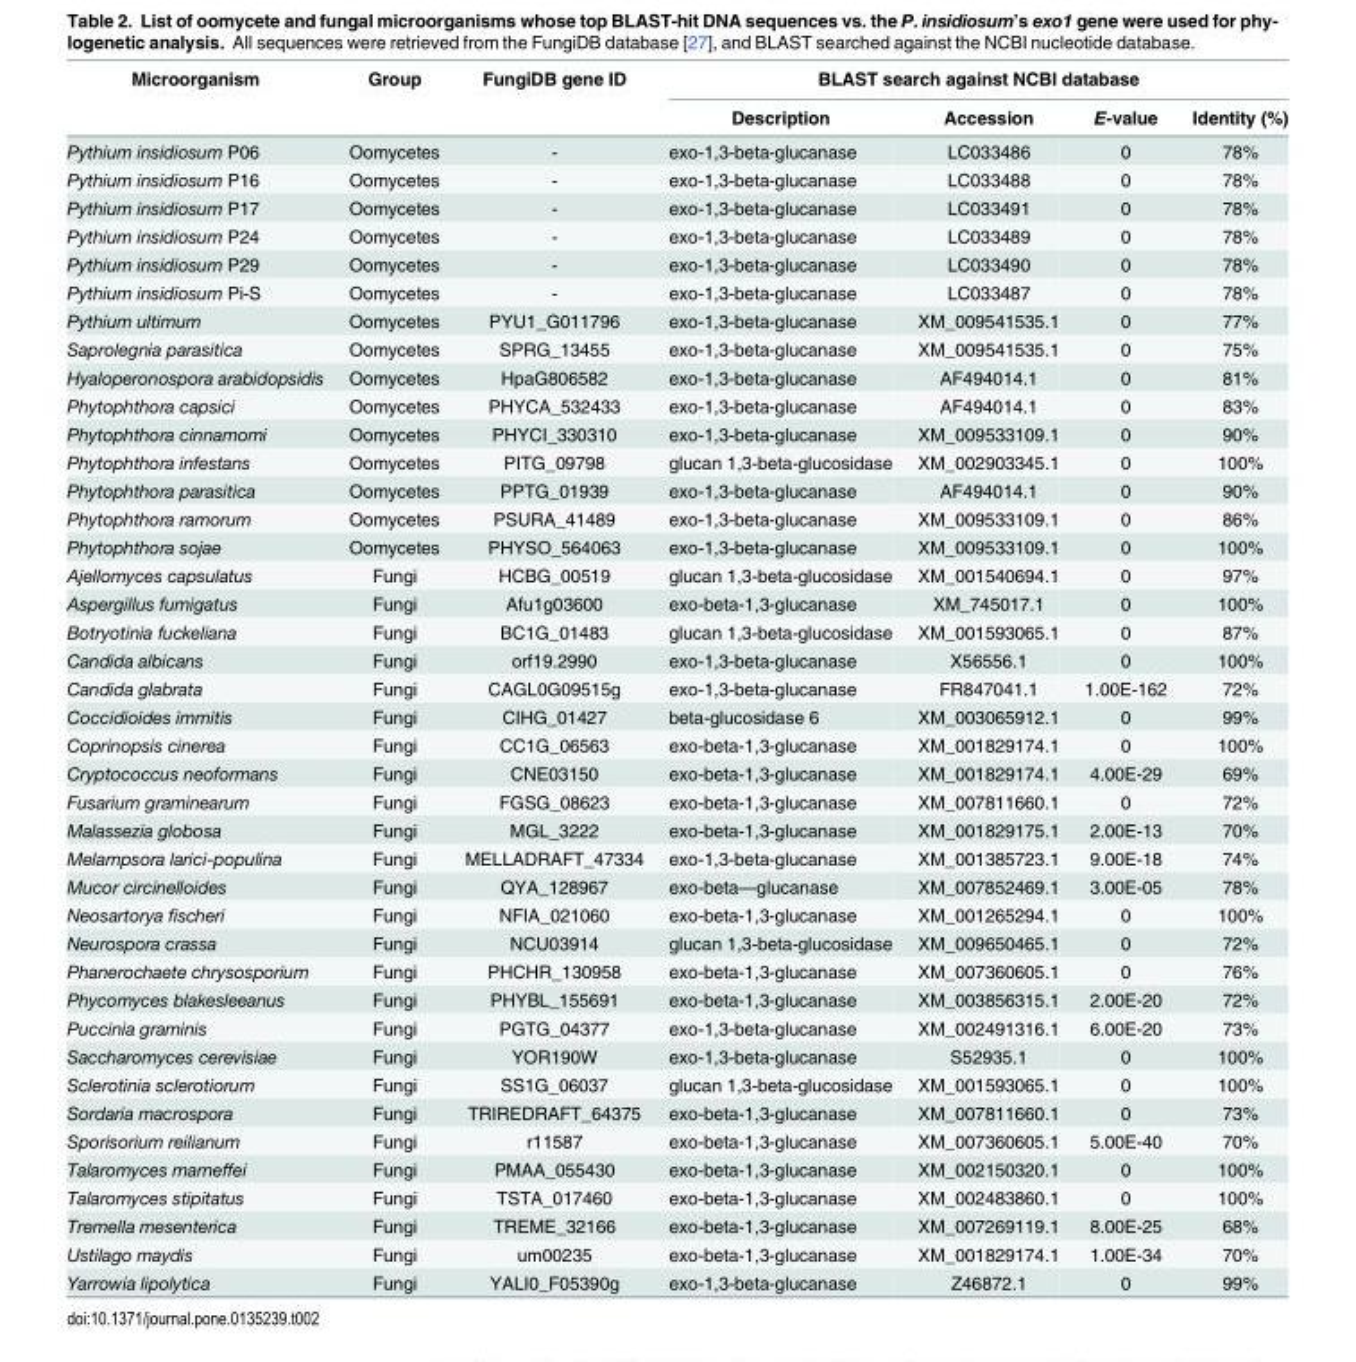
<table><thead><tr><td rowspan="2">Microorganism</td><td rowspan="2">Group</td><td rowspan="2">FungiDB gene ID</td><td colspan="4">BLAST search against NCBI database</td></tr><tr><td>Description</td><td>Accession</td><td>E-value</td><td>Identity (%)</td></tr></thead><tbody><tr><td>Pythium insidiosum P06</td><td>Oomycetes</td><td>-</td><td>exo-1,3-beta-glucanase</td><td>LC033486</td><td>0</td><td>78%</td></tr><tr><td>Pythium insidiosum P16</td><td>Oomycetes</td><td>-</td><td>exo-1,3-beta-glucanase</td><td>LC033488</td><td>0</td><td>78%</td></tr><tr><td>Pythium insidiosum P17</td><td>Oomycetes</td><td>-</td><td>exo-1,3-beta-glucanase</td><td>LC033491</td><td>0</td><td>78%</td></tr><tr><td>Pythium insidiosum P24</td><td>Oomycetes</td><td>-</td><td>exo-1,3-beta-glucanase</td><td>LC033489</td><td>0</td><td>78%</td></tr><tr><td>Pythium insidiosum P29</td><td>Oomycetes</td><td>-</td><td>exo-1,3-beta-glucanase</td><td>LC033490</td><td>0</td><td>78%</td></tr><tr><td>Pythium insidiosum Pi-S</td><td>Oomycetes</td><td>-</td><td>exo-1,3-beta-glucanase</td><td>LC033487</td><td>0</td><td>78%</td></tr><tr><td>Pythium ultimum</td><td>Oomycetes</td><td>PYU1_G011796</td><td>exo-1,3-beta-glucanase</td><td>XM_009541535.1</td><td>0</td><td>77%</td></tr><tr><td>Saprolegnia parasitica</td><td>Oomycetes</td><td>SPRG_13455</td><td>exo-1,3-beta-glucanase</td><td>XM_009541535.1</td><td>0</td><td>75%</td></tr><tr><td>Hyaloperonospora arabidopsidis</td><td>Oomycetes</td><td>HpaG806582</td><td>exo-1,3-beta-glucanase</td><td>AF494014.1</td><td>0</td><td>81%</td></tr><tr><td>Phytophthora capsici</td><td>Oomycetes</td><td>PHYCA_532433</td><td>exo-1,3-beta-glucanase</td><td>AF494014.1</td><td>0</td><td>83%</td></tr><tr><td>Phytophthora cinnamomi</td><td>Oomycetes</td><td>PHYCI_330310</td><td>exo-1,3-beta-glucanase</td><td>XM_009533109.1</td><td>0</td><td>90%</td></tr><tr><td>Phytophthora infestans</td><td>Oomycetes</td><td>PITG_09798</td><td>glucan 1,3-beta-glucosidase</td><td>XM_002903345.1</td><td>0</td><td>100%</td></tr><tr><td>Phytophthora parasitica</td><td>Oomycetes</td><td>PPTG_01939</td><td>exo-1,3-beta-glucanase</td><td>AF494014.1</td><td>0</td><td>90%</td></tr><tr><td>Phytophthora ramorum</td><td>Oomycetes</td><td>PSURA_41489</td><td>exo-1,3-beta-glucanase</td><td>XM_009533109.1</td><td>0</td><td>86%</td></tr><tr><td>Phytophthora sojae</td><td>Oomycetes</td><td>PHYSO_564063</td><td>exo-1,3-beta-glucanase</td><td>XM_009533109.1</td><td>0</td><td>100%</td></tr><tr><td>Ajellomyces capsulatus</td><td>Fungi</td><td>HCBG_00519</td><td>glucan 1,3-beta-glucosidase</td><td>XM_001540694.1</td><td>0</td><td>97%</td></tr><tr><td>Aspergillus fumigatus</td><td>Fungi</td><td>Afu1g03600</td><td>exo-beta-1,3-glucanase</td><td>XM_745017.1</td><td>0</td><td>100%</td></tr><tr><td>Botryotinia fuckeliana</td><td>Fungi</td><td>BC1G_01483</td><td>glucan 1,3-beta-glucosidase</td><td>XM_001593065.1</td><td>0</td><td>87%</td></tr><tr><td>Candida albicans</td><td>Fungi</td><td>orf19.2990</td><td>exo-1,3-beta-glucanase</td><td>X56556.1</td><td>0</td><td>100%</td></tr><tr><td>Candida glabrata</td><td>Fungi</td><td>CAGL0G09515g</td><td>exo-1,3-beta-glucanase</td><td>FR847041.1</td><td>1.00E-162</td><td>72%</td></tr><tr><td>Coccidioides immitis</td><td>Fungi</td><td>CIHG_01427</td><td>beta-glucosidase 6</td><td>XM_003065912.1</td><td>0</td><td>99%</td></tr><tr><td>Coprinopsis cinerea</td><td>Fungi</td><td>CC1G_06563</td><td>exo-beta-1,3-glucanase</td><td>XM_001829174.1</td><td>0</td><td>100%</td></tr><tr><td>Cryptococcus neoformans</td><td>Fungi</td><td>CNE03150</td><td>exo-beta-1,3-glucanase</td><td>XM_001829174.1</td><td>4.00E-29</td><td>69%</td></tr><tr><td>Fusarium graminearum</td><td>Fungi</td><td>FGSG_08623</td><td>exo-beta-1,3-glucanase</td><td>XM_007811660.1</td><td>0</td><td>72%</td></tr><tr><td>Malassezia globosa</td><td>Fungi</td><td>MGL_3222</td><td>exo-beta-1,3-glucanase</td><td>XM_001829175.1</td><td>2.00E-13</td><td>70%</td></tr><tr><td>Melampsora larici-populina</td><td>Fungi</td><td>MELLADRAFT_47334</td><td>exo-1,3-beta-glucanase</td><td>XM_001385723.1</td><td>9.00E-18</td><td>74%</td></tr><tr><td>Mucor circinelloides</td><td>Fungi</td><td>QYA_128967</td><td>exo-beta—glucanase</td><td>XM_007852469.1</td><td>3.00E-05</td><td>78%</td></tr><tr><td>Neosartorya fischeri</td><td>Fungi</td><td>NFIA_021060</td><td>exo-beta-1,3-glucanase</td><td>XM_001265294.1</td><td>0</td><td>100%</td></tr><tr><td>Neurospora crassa</td><td>Fungi</td><td>NCU03914</td><td>glucan 1,3-beta-glucosidase</td><td>XM_009650465.1</td><td>0</td><td>72%</td></tr><tr><td>Phanerochaete chrysosporium</td><td>Fungi</td><td>PHCHR_130958</td><td>exo-beta-1,3-glucanase</td><td>XM_007360605.1</td><td>0</td><td>76%</td></tr><tr><td>Phycomyces blakesleeanus</td><td>Fungi</td><td>PHYBL_155691</td><td>exo-beta-1,3-glucanase</td><td>XM_003856315.1</td><td>2.00E-20</td><td>72%</td></tr><tr><td>Puccinia graminis</td><td>Fungi</td><td>PGTG_04377</td><td>exo-1,3-beta-glucanase</td><td>XM_002491316.1</td><td>6.00E-20</td><td>73%</td></tr><tr><td>Saccharomyces cerevisiae</td><td>Fungi</td><td>YOR190W</td><td>exo-1,3-beta-glucanase</td><td>S52935.1</td><td>0</td><td>100%</td></tr><tr><td>Sclerotinia sclerotiorum</td><td>Fungi</td><td>SS1G_06037</td><td>glucan 1,3-beta-glucosidase</td><td>XM_001593065.1</td><td>0</td><td>100%</td></tr><tr><td>Sordaria macrospora</td><td>Fungi</td><td>TRIREDRAFT_64375</td><td>exo-beta-1,3-glucanase</td><td>XM_007811660.1</td><td>0</td><td>73%</td></tr><tr><td>Sporisorium reilianum</td><td>Fungi</td><td>r11587</td><td>exo-beta-1,3-glucanase</td><td>XM_007360605.1</td><td>5.00E-40</td><td>70%</td></tr><tr><td>Talaromyces marneffei</td><td>Fungi</td><td>PMAA_055430</td><td>exo-beta-1,3-glucanase</td><td>XM_002150320.1</td><td>0</td><td>100%</td></tr><tr><td>Talaromyces stipitatus</td><td>Fungi</td><td>TSTA_017460</td><td>exo-beta-1,3-glucanase</td><td>XM_002483860.1</td><td>0</td><td>100%</td></tr><tr><td>Tremella mesenterica</td><td>Fungi</td><td>TREME_32166</td><td>exo-beta-1,3-glucanase</td><td>XM_007269119.1</td><td>8.00E-25</td><td>68%</td></tr><tr><td>Ustilago maydis</td><td>Fungi</td><td>um00235</td><td>exo-beta-1,3-glucanase</td><td>XM_001829174.1</td><td>1.00E-34</td><td>70%</td></tr><tr><td>Yarrowia lipolytica</td><td>Fungi</td><td>YALI0_F05390g</td><td>exo-1,3-beta-glucanase</td><td>Z46872.1</td><td>0</td><td>99%</td></tr></tbody></table>